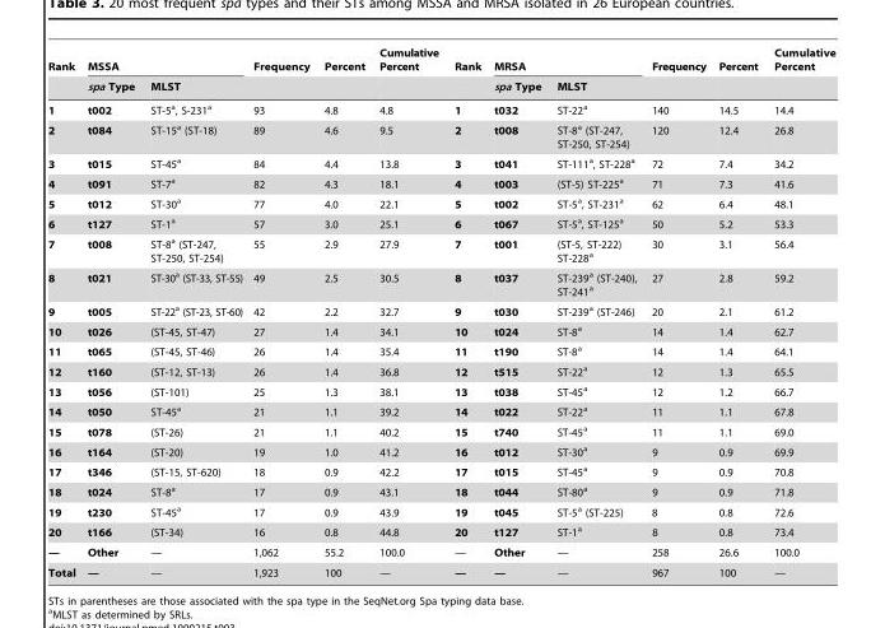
<table><thead><tr><td rowspan="2">Rank</td><td colspan="2">MSSA</td><td rowspan="2">Frequency</td><td rowspan="2">Percent</td><td rowspan="2">Cumulative Percent</td><td rowspan="2">Rank</td><td colspan="2">MRSA</td><td rowspan="2">Frequency</td><td rowspan="2">Percent</td><td rowspan="2">Cumulative Percent</td></tr><tr><td>spa Type</td><td>MLST</td><td>spa Type</td><td>MLST</td></tr></thead><tbody><tr><td>1</td><td>t002</td><td>ST-5<sup>a</sup>, S-231<sup>a</sup></td><td>93</td><td>4.8</td><td>4.8</td><td>1</td><td>t032</td><td>ST-22<sup>a</sup></td><td>140</td><td>14.5</td><td>14.4</td></tr><tr><td>2</td><td>t084</td><td>ST-15<sup>a</sup> (ST-18)</td><td>89</td><td>4.6</td><td>9.5</td><td>2</td><td>t008</td><td>ST-8<sup>a</sup> (ST-247, ST-250, ST-254)</td><td>120</td><td>12.4</td><td>26.8</td></tr><tr><td>3</td><td>t015</td><td>ST-45<sup>a</sup></td><td>84</td><td>4.4</td><td>13.8</td><td>3</td><td>t041</td><td>ST-111<sup>a</sup>, ST-228<sup>a</sup></td><td>72</td><td>7.4</td><td>34.2</td></tr><tr><td>4</td><td>t091</td><td>ST-7<sup>a</sup></td><td>82</td><td>4.3</td><td>18.1</td><td>4</td><td>t003</td><td>(ST-5) ST-225<sup>a</sup></td><td>71</td><td>7.3</td><td>41.6</td></tr><tr><td>5</td><td>t012</td><td>ST-30<sup>a</sup></td><td>77</td><td>4.0</td><td>22.1</td><td>5</td><td>t002</td><td>ST-5<sup>a</sup>, ST-231<sup>a</sup></td><td>62</td><td>6.4</td><td>48.1</td></tr><tr><td>6</td><td>t127</td><td>ST-1<sup>a</sup></td><td>57</td><td>3.0</td><td>25.1</td><td>6</td><td>t067</td><td>ST-5<sup>a</sup>, ST-125<sup>a</sup></td><td>50</td><td>5.2</td><td>53.3</td></tr><tr><td>7</td><td>t008</td><td>ST-8<sup>a</sup> (ST-247, ST-250, ST-254)</td><td>55</td><td>2.9</td><td>27.9</td><td>7</td><td>t001</td><td>(ST-5, ST-222) ST-228<sup>a</sup></td><td>30</td><td>3.1</td><td>56.4</td></tr><tr><td>8</td><td>t021</td><td>ST-30<sup>a</sup> (ST-33, ST-55)</td><td>49</td><td>2.5</td><td>30.5</td><td>8</td><td>t037</td><td>ST-239<sup>a</sup> (ST-240), ST-241<sup>a</sup></td><td>27</td><td>2.8</td><td>59.2</td></tr><tr><td>9</td><td>t005</td><td>ST-22<sup>a</sup> (ST-23, ST-60)</td><td>42</td><td>2.2</td><td>32.7</td><td>9</td><td>t030</td><td>ST-239<sup>a</sup> (ST-246)</td><td>20</td><td>2.1</td><td>61.2</td></tr><tr><td>10</td><td>t026</td><td>(ST-45, ST-47)</td><td>27</td><td>1.4</td><td>34.1</td><td>10</td><td>t024</td><td>ST-8<sup>a</sup></td><td>14</td><td>1.4</td><td>62.7</td></tr><tr><td>11</td><td>t065</td><td>(ST-45, ST-46)</td><td>26</td><td>1.4</td><td>35.4</td><td>11</td><td>t190</td><td>ST-8<sup>a</sup></td><td>14</td><td>1.4</td><td>64.1</td></tr><tr><td>12</td><td>t160</td><td>(ST-12, ST-13)</td><td>26</td><td>1.4</td><td>36.8</td><td>12</td><td>t515</td><td>ST-22<sup>a</sup></td><td>12</td><td>1.3</td><td>65.5</td></tr><tr><td>13</td><td>t056</td><td>(ST-101)</td><td>25</td><td>1.3</td><td>38.1</td><td>13</td><td>t038</td><td>ST-45<sup>a</sup></td><td>12</td><td>1.2</td><td>66.7</td></tr><tr><td>14</td><td>t050</td><td>ST-45<sup>a</sup></td><td>21</td><td>1.1</td><td>39.2</td><td>14</td><td>t022</td><td>ST-22<sup>a</sup></td><td>11</td><td>1.1</td><td>67.8</td></tr><tr><td>15</td><td>t078</td><td>(ST-26)</td><td>21</td><td>1.1</td><td>40.2</td><td>15</td><td>t740</td><td>ST-45<sup>a</sup></td><td>11</td><td>1.1</td><td>69.0</td></tr><tr><td>16</td><td>t164</td><td>(ST-20)</td><td>19</td><td>1.0</td><td>41.2</td><td>16</td><td>t012</td><td>ST-30<sup>a</sup></td><td>9</td><td>0.9</td><td>69.9</td></tr><tr><td>17</td><td>t346</td><td>(ST-15, ST-620)</td><td>18</td><td>0.9</td><td>42.2</td><td>17</td><td>t015</td><td>ST-45<sup>a</sup></td><td>9</td><td>0.9</td><td>70.8</td></tr><tr><td>18</td><td>t024</td><td>ST-8<sup>a</sup></td><td>17</td><td>0.9</td><td>43.1</td><td>18</td><td>t044</td><td>ST-80<sup>a</sup></td><td>9</td><td>0.9</td><td>71.8</td></tr><tr><td>19</td><td>t230</td><td>ST-45<sup>a</sup></td><td>17</td><td>0.9</td><td>43.9</td><td>19</td><td>t045</td><td>ST-5<sup>a</sup> (ST-225)</td><td>8</td><td>0.8</td><td>72.6</td></tr><tr><td>20</td><td>t166</td><td>(ST-34)</td><td>16</td><td>0.8</td><td>44.8</td><td>20</td><td>t127</td><td>ST-1<sup>a</sup></td><td>8</td><td>0.8</td><td>73.4</td></tr><tr><td>—</td><td>Other</td><td>—</td><td>1,062</td><td>55.2</td><td>100.0</td><td>—</td><td>Other</td><td>—</td><td>258</td><td>26.6</td><td>100.0</td></tr><tr><td>Total</td><td>—</td><td>—</td><td>1,923</td><td>100</td><td>—</td><td>—</td><td>—</td><td>—</td><td>967</td><td>100</td><td>—</td></tr></tbody></table>